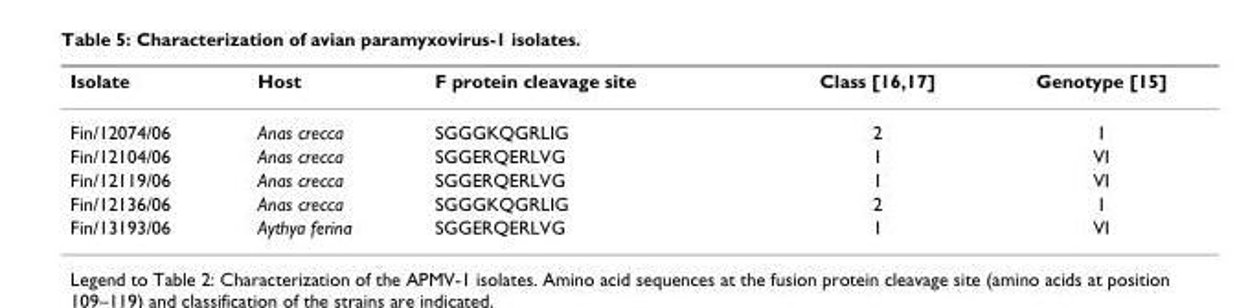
<table><thead><tr><td>Isolate</td><td>Host</td><td>F protein cleavage site</td><td>Class [16,17]</td><td>Genotype [15]</td></tr></thead><tbody><tr><td>Fin/12074/06</td><td>Anas crecca</td><td>SGGGKQGRLIG</td><td>2</td><td>I</td></tr><tr><td>Fin/12104/06</td><td>Anas crecca</td><td>SGGERQERLVG</td><td>1</td><td>VI</td></tr><tr><td>Fin/12119/06</td><td>Anas crecca</td><td>SGGERQERLVG</td><td>1</td><td>VI</td></tr><tr><td>Fin/12136/06</td><td>Anas crecca</td><td>SGGGKQGRLIG</td><td>2</td><td>I</td></tr><tr><td>Fin/13193/06</td><td>Aythya ferina</td><td>SGGERQERLVG</td><td>1</td><td>VI</td></tr></tbody></table>